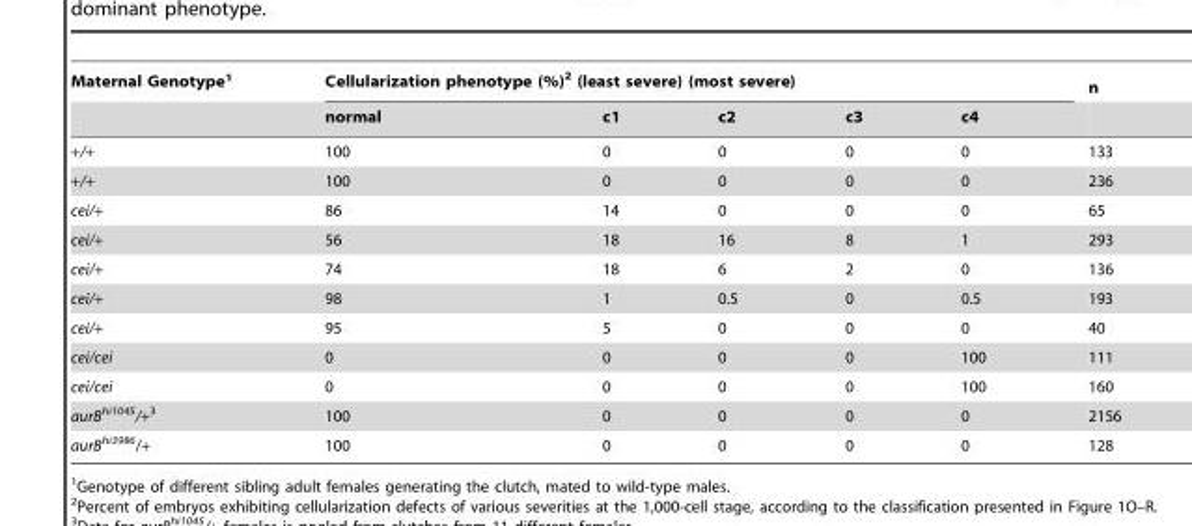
<table><thead><tr><td rowspan="2">Maternal Genotype<sup>1</sup></td><td colspan="5">Cellularization phenotype (%)<sup>2</sup> (least severe) (most severe)</td><td rowspan="2">n</td></tr><tr><td>normal</td><td>c1</td><td>c2</td><td>c3</td><td>c4</td></tr></thead><tbody><tr><td>+/+</td><td>100</td><td>0</td><td>0</td><td>0</td><td>0</td><td>133</td></tr><tr><td>+/+</td><td>100</td><td>0</td><td>0</td><td>0</td><td>0</td><td>236</td></tr><tr><td>cei/+</td><td>86</td><td>14</td><td>0</td><td>0</td><td>0</td><td>65</td></tr><tr><td>cei/+</td><td>56</td><td>18</td><td>16</td><td>8</td><td>1</td><td>293</td></tr><tr><td>cei/+</td><td>74</td><td>18</td><td>6</td><td>2</td><td>0</td><td>136</td></tr><tr><td>cei/+</td><td>98</td><td>1</td><td>0.5</td><td>0</td><td>0.5</td><td>193</td></tr><tr><td>cei/+</td><td>95</td><td>5</td><td>0</td><td>0</td><td>0</td><td>40</td></tr><tr><td>cei/cei</td><td>0</td><td>0</td><td>0</td><td>0</td><td>100</td><td>111</td></tr><tr><td>cei/cei</td><td>0</td><td>0</td><td>0</td><td>0</td><td>100</td><td>160</td></tr><tr><td>aurB<sup>hi1045</sup>/+3</td><td>100</td><td>0</td><td>0</td><td>0</td><td>0</td><td>2156</td></tr><tr><td>aurB<sup>hi3986</sup>/+</td><td>100</td><td>0</td><td>0</td><td>0</td><td>0</td><td>128</td></tr></tbody></table>